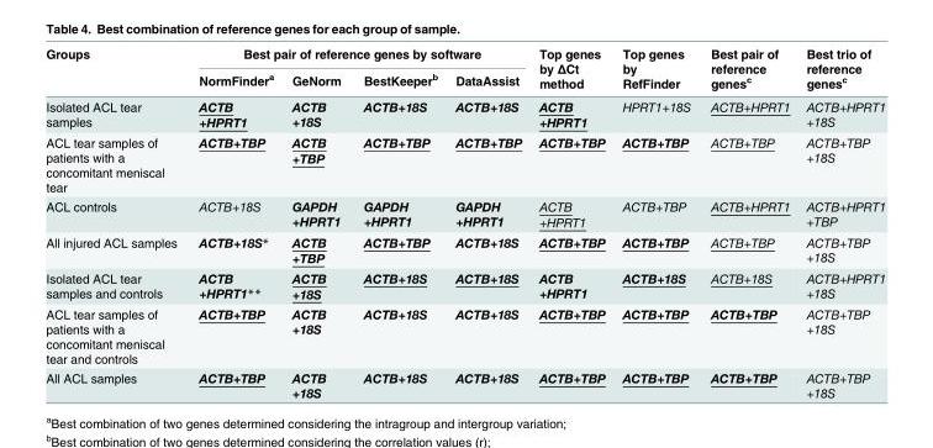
<table><thead><tr><td rowspan="2">Groups</td><td colspan="4">Best pair of reference genes by software</td><td rowspan="2">Top genes by ΔCt method</td><td rowspan="2">Top genes by RefFinder</td><td rowspan="2">Best pair of reference genes<sup>c</sup></td><td rowspan="2">Best trio of reference genes<sup>c</sup></td></tr><tr><td>NormFinder<sup>a</sup></td><td>GeNorm</td><td>BestKeeper<sup>b</sup></td><td>DataAssist</td></tr></thead><tbody><tr><td>Isolated ACL tear samples</td><td>ACTB +HPRT1</td><td>ACTB +18S</td><td>ACTB+18S</td><td>ACTB+18S</td><td>ACTB +HPRT1</td><td>HPRT1+18S</td><td>ACTB+HPRT1</td><td>ACTB+HPRT1 +18S</td></tr><tr><td>ACL tear samples of patients with a concomitant meniscal tear</td><td>ACTB+TBP</td><td>ACTB +TBP</td><td>ACTB+TBP</td><td>ACTB+TBP</td><td>ACTB+TBP</td><td>ACTB+TBP</td><td>ACTB+TBP</td><td>ACTB+TBP +18S</td></tr><tr><td>ACL controls</td><td>ACTB+18S</td><td>GAPDH +HPRT1</td><td>GAPDH +HPRT1</td><td>GAPDH +HPRT1</td><td>ACTB +HPRT1</td><td>ACTB+TBP</td><td>ACTB+HPRT1</td><td>ACTB+HPRT1 +TBP</td></tr><tr><td>All injured ACL samples</td><td>ACTB+18S*</td><td>ACTB +TBP</td><td>ACTB+TBP</td><td>ACTB+18S</td><td>ACTB+TBP</td><td>ACTB+TBP</td><td>ACTB+TBP</td><td>ACTB+TBP +18S</td></tr><tr><td>Isolated ACL tear samples and controls</td><td>ACTB +HPRT1**</td><td>ACTB +18S</td><td>ACTB+18S</td><td>ACTB+18S</td><td>ACTB +HPRT1</td><td>ACTB+18S</td><td>ACTB+18S</td><td>ACTB+HPRT1 +18S</td></tr><tr><td>ACL tear samples of patients with a concomitant meniscal tear and controls</td><td>ACTB+TBP</td><td>ACTB +18S</td><td>ACTB+18S</td><td>ACTB+18S</td><td>ACTB+TBP</td><td>ACTB+TBP</td><td>ACTB+TBP</td><td>ACTB+TBP +18S</td></tr><tr><td>All ACL samples</td><td>ACTB+TBP</td><td>ACTB +18S</td><td>ACTB+18S</td><td>ACTB+18S</td><td>ACTB+TBP</td><td>ACTB+TBP</td><td>ACTB+TBP</td><td>ACTB+TBP +18S</td></tr></tbody></table>